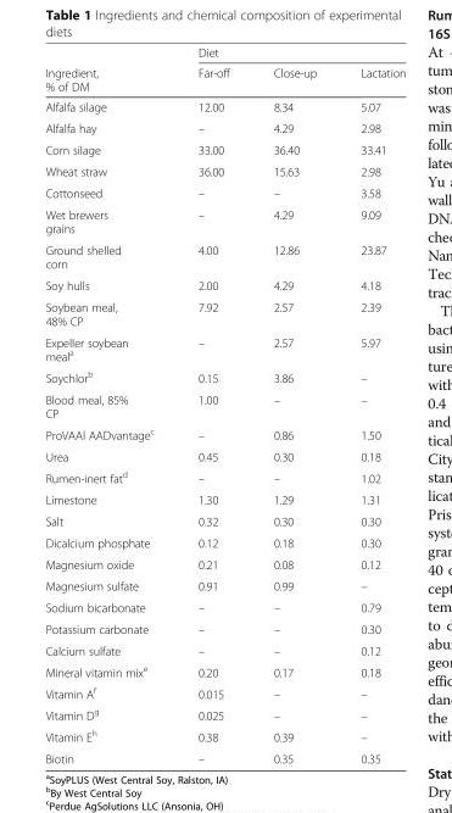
<table><thead><tr><td rowspan="2">Ingredient, % of DM</td><td colspan="3">Diet</td></tr><tr><td>Far-off</td><td>Close-up</td><td>Lactation</td></tr></thead><tbody><tr><td>Alfalfa silage</td><td>12.00</td><td>8.34</td><td>5.07</td></tr><tr><td>Alfalfa hay</td><td>–</td><td>4.29</td><td>2.98</td></tr><tr><td>Corn silage</td><td>33.00</td><td>36.40</td><td>33.41</td></tr><tr><td>Wheat straw</td><td>36.00</td><td>15.63</td><td>2.98</td></tr><tr><td>Cottonseed</td><td>–</td><td>–</td><td>3.58</td></tr><tr><td>Wet brewers grains</td><td>–</td><td>4.29</td><td>9.09</td></tr><tr><td>Ground shelled corn</td><td>4.00</td><td>12.86</td><td>23.87</td></tr><tr><td>Soy hulls</td><td>2.00</td><td>4.29</td><td>4.18</td></tr><tr><td>Soybean meal, 48% CP</td><td>7.92</td><td>2.57</td><td>2.39</td></tr><tr><td>Expeller soybean meal<sup>a</sup></td><td>–</td><td>2.57</td><td>5.97</td></tr><tr><td>Soychlor<sup>b</sup></td><td>0.15</td><td>3.86</td><td>–</td></tr><tr><td>Blood meal, 85% CP</td><td>1.00</td><td>–</td><td>–</td></tr><tr><td>ProVAAl AADvantage<sup>c</sup></td><td>–</td><td>0.86</td><td>1.50</td></tr><tr><td>Urea</td><td>0.45</td><td>0.30</td><td>0.18</td></tr><tr><td>Rumen-inert fat<sup>d</sup></td><td>–</td><td>–</td><td>1.02</td></tr><tr><td>Limestone</td><td>1.30</td><td>1.29</td><td>1.31</td></tr><tr><td>Salt</td><td>0.32</td><td>0.30</td><td>0.30</td></tr><tr><td>Dicalcium phosphate</td><td>0.12</td><td>0.18</td><td>0.30</td></tr><tr><td>Magnesium oxide</td><td>0.21</td><td>0.08</td><td>0.12</td></tr><tr><td>Magnesium sulfate</td><td>0.91</td><td>0.99</td><td>–</td></tr><tr><td>Sodium bicarbonate</td><td>–</td><td>–</td><td>0.79</td></tr><tr><td>Potassium carbonate</td><td>–</td><td>–</td><td>0.30</td></tr><tr><td>Calcium sulfate</td><td>–</td><td>–</td><td>0.12</td></tr><tr><td>Mineral vitamin mix<sup>e</sup></td><td>0.20</td><td>0.17</td><td>0.18</td></tr><tr><td>Vitamin A<sup>f</sup></td><td>0.015</td><td>–</td><td>–</td></tr><tr><td>Vitamin D<sup>g</sup></td><td>0.025</td><td>–</td><td>–</td></tr><tr><td>Vitamin E<sup>h</sup></td><td>0.38</td><td>0.39</td><td>–</td></tr><tr><td>Biotin</td><td>–</td><td>0.35</td><td>0.35</td></tr></tbody></table>